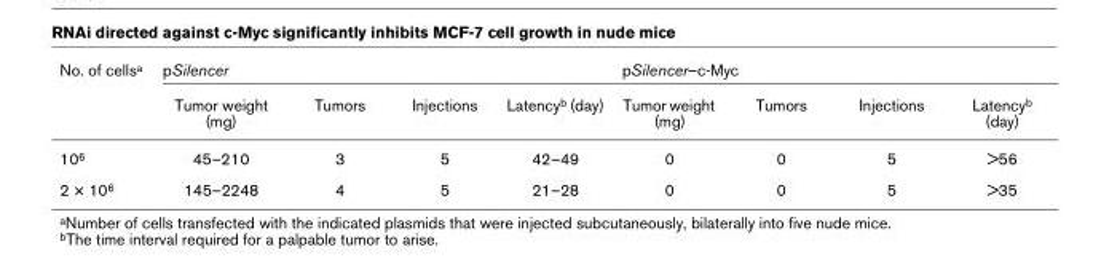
<table><thead><tr><td rowspan="2">No. of cellsa</td><td colspan="4">pSilencer</td><td colspan="4">pSilencer–c-Myc</td></tr><tr><td>Tumor weight (mg)</td><td>Tumors</td><td>Injections</td><td>Latencyb (day)</td><td>Tumor weight (mg)</td><td>Tumors</td><td>Injections</td><td>Latencyb (day)</td></tr></thead><tbody><tr><td>106</td><td>45–210</td><td>3</td><td>5</td><td>42–49</td><td>0</td><td>0</td><td>5</td><td>&gt;56</td></tr><tr><td>2 × 106</td><td>145–2248</td><td>4</td><td>5</td><td>21–28</td><td>0</td><td>0</td><td>5</td><td>&gt;35</td></tr></tbody></table>